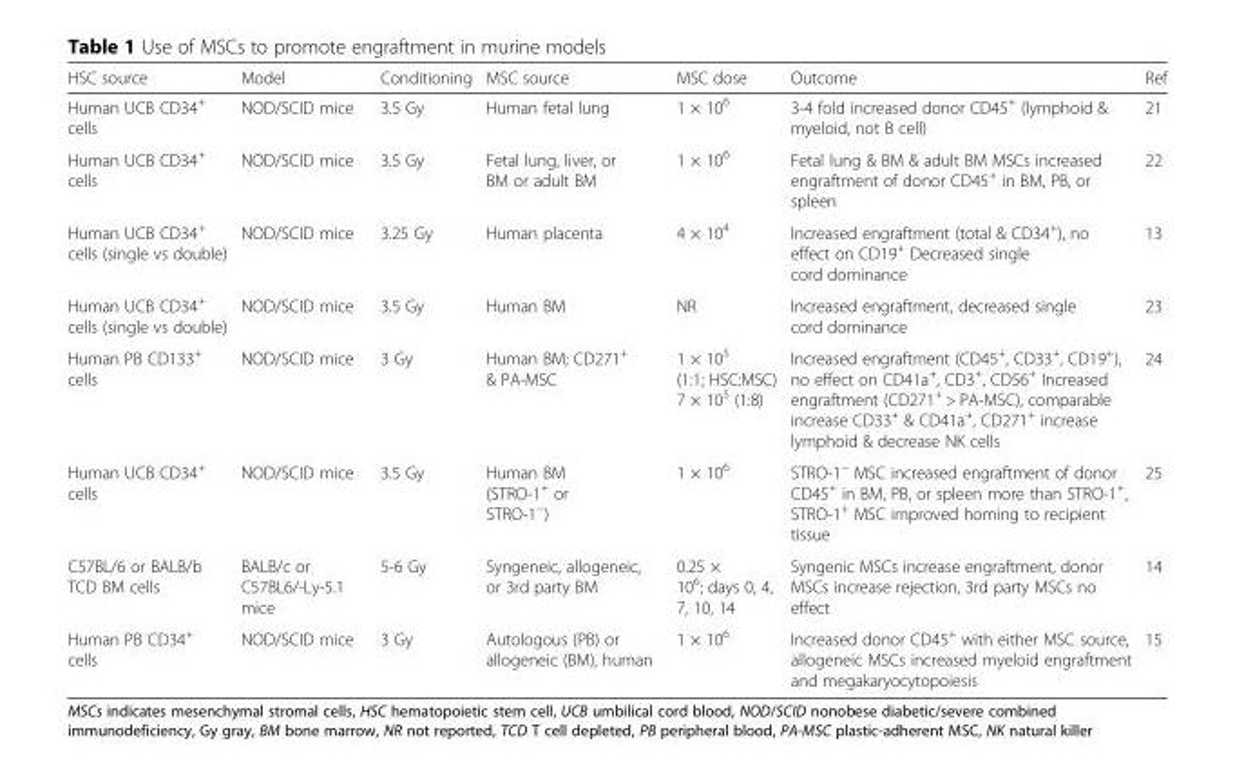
<table><thead><tr><td>HSC source</td><td>Model</td><td>Conditioning</td><td>MSC source</td><td>MSC dose</td><td>Outcome</td><td>Ref</td></tr></thead><tbody><tr><td>Human UCB CD34<sup>+</sup> cells</td><td>NOD/SCID mice</td><td>3.5 Gy</td><td>Human fetal lung</td><td>1 × 10<sup>6</sup></td><td>3-4 fold increased donor CD45<sup>+</sup> (lymphoid &amp; myeloid, not B cell)</td><td>21</td></tr><tr><td>Human UCB CD34<sup>+</sup> cells</td><td>NOD/SCID mice</td><td>3.5 Gy</td><td>Fetal lung, liver, or BM or adult BM</td><td>1 × 10<sup>6</sup></td><td>Fetal lung &amp; BM &amp; adult BM MSCs increased engraftment of donor CD45<sup>+</sup> in BM, PB, or spleen</td><td>22</td></tr><tr><td>Human UCB CD34<sup>+</sup> cells (single vs double)</td><td>NOD/SCID mice</td><td>3.25 Gy</td><td>Human placenta</td><td>4 × 10<sup>4</sup></td><td>Increased engraftment (total &amp; CD34<sup>+</sup>), no effect on CD19<sup>+</sup> Decreased single cord dominance</td><td>13</td></tr><tr><td>Human UCB CD34<sup>+</sup> cells (single vs double)</td><td>NOD/SCID mice</td><td>3.5 Gy</td><td>Human BM</td><td>NR</td><td>Increased engraftment, decreased single cord dominance</td><td>23</td></tr><tr><td>Human PB CD133<sup>+</sup> cells</td><td>NOD/SCID mice</td><td>3 Gy</td><td>Human BM; CD271<sup>+</sup> &amp; PA-MSC</td><td>1 × 10<sup>5</sup> (1:1; HSC:MSC) 7 × 10<sup>5</sup> (1:8)</td><td>Increased engraftment (CD45<sup>+</sup>, CD33<sup>+</sup>, CD19<sup>+</sup>), no effect on CD41a<sup>+</sup>, CD3<sup>+</sup>, CD56<sup>+</sup> Increased engraftment (CD271<sup>+</sup> &gt; PA-MSC), comparable increase CD33<sup>+</sup> &amp; CD41a<sup>+</sup>, CD271<sup>+</sup> increase lymphoid &amp; decrease NK cells</td><td>24</td></tr><tr><td>Human UCB CD34<sup>+</sup> cells</td><td>NOD/SCID mice</td><td>3.5 Gy</td><td>Human BM (STRO-1<sup>+</sup> or STRO-1<sup>−</sup>)</td><td>1 × 10<sup>6</sup></td><td>STRO-1<sup>−</sup> MSC increased engraftment of donor CD45<sup>+</sup> in BM, PB, or spleen more than STRO-1<sup>+</sup>, STRO-1<sup>+</sup> MSC improved homing to recipient tissue</td><td>25</td></tr><tr><td>C57BL/6 or BALB/b TCD BM cells</td><td>BALB/c or C57BL6/-Ly-5.1 mice</td><td>5-6 Gy</td><td>Syngeneic, allogeneic, or 3rd party BM</td><td>0.25 × 10<sup>6</sup>; days 0, 4, 7, 10, 14</td><td>Syngenic MSCs increase engraftment, donor MSCs increase rejection, 3rd party MSCs no effect</td><td>14</td></tr><tr><td>Human PB CD34<sup>+</sup> cells</td><td>NOD/SCID mice</td><td>3 Gy</td><td>Autologous (PB) or allogeneic (BM), human</td><td>1 × 10<sup>6</sup></td><td>Increased donor CD45<sup>+</sup> with either MSC source, allogeneic MSCs increased myeloid engraftment and megakaryocytopoiesis</td><td>15</td></tr></tbody></table>